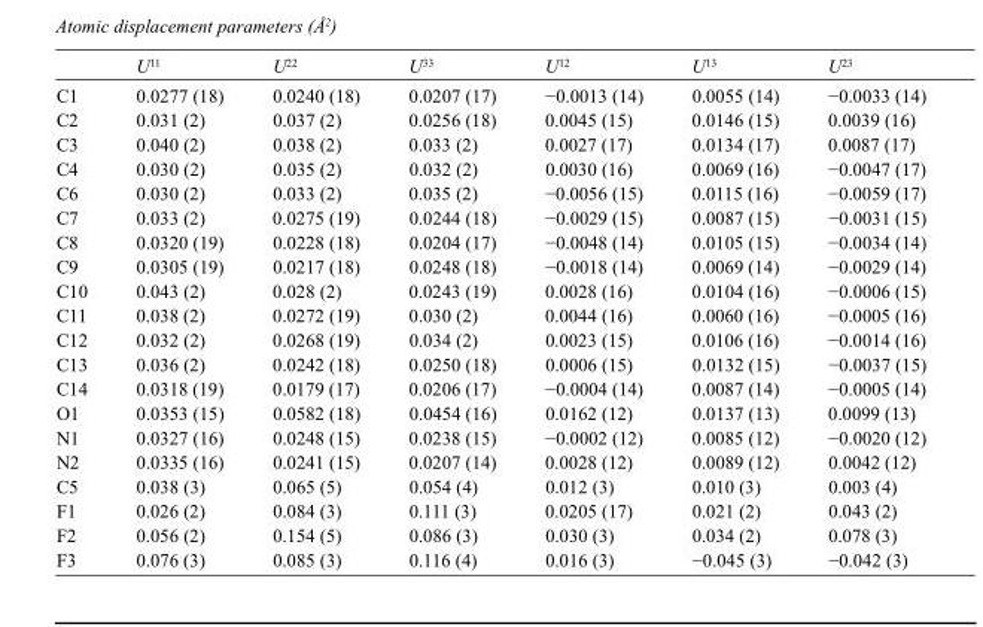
<table><thead><tr><td></td><td>U<sup>11</sup></td><td>U<sup>22</sup></td><td>U<sup>33</sup></td><td>U<sup>12</sup></td><td>U<sup>13</sup></td><td>U<sup>23</sup></td></tr></thead><tbody><tr><td>C1</td><td>0.0277 (18)</td><td>0.0240 (18)</td><td>0.0207 (17)</td><td>−0.0013 (14)</td><td>0.0055 (14)</td><td>−0.0033 (14)</td></tr><tr><td>C2</td><td>0.031 (2)</td><td>0.037 (2)</td><td>0.0256 (18)</td><td>0.0045 (15)</td><td>0.0146 (15)</td><td>0.0039 (16)</td></tr><tr><td>C3</td><td>0.040 (2)</td><td>0.038 (2)</td><td>0.033 (2)</td><td>0.0027 (17)</td><td>0.0134 (17)</td><td>0.0087 (17)</td></tr><tr><td>C4</td><td>0.030 (2)</td><td>0.035 (2)</td><td>0.032 (2)</td><td>0.0030 (16)</td><td>0.0069 (16)</td><td>−0.0047 (17)</td></tr><tr><td>C6</td><td>0.030 (2)</td><td>0.033 (2)</td><td>0.035 (2)</td><td>−0.0056 (15)</td><td>0.0115 (16)</td><td>−0.0059 (17)</td></tr><tr><td>C7</td><td>0.033 (2)</td><td>0.0275 (19)</td><td>0.0244 (18)</td><td>−0.0029 (15)</td><td>0.0087 (15)</td><td>−0.0031 (15)</td></tr><tr><td>C8</td><td>0.0320 (19)</td><td>0.0228 (18)</td><td>0.0204 (17)</td><td>−0.0048 (14)</td><td>0.0105 (15)</td><td>−0.0034 (14)</td></tr><tr><td>C9</td><td>0.0305 (19)</td><td>0.0217 (18)</td><td>0.0248 (18)</td><td>−0.0018 (14)</td><td>0.0069 (14)</td><td>−0.0029 (14)</td></tr><tr><td>C10</td><td>0.043 (2)</td><td>0.028 (2)</td><td>0.0243 (19)</td><td>0.0028 (16)</td><td>0.0104 (16)</td><td>−0.0006 (15)</td></tr><tr><td>C11</td><td>0.038 (2)</td><td>0.0272 (19)</td><td>0.030 (2)</td><td>0.0044 (16)</td><td>0.0060 (16)</td><td>−0.0005 (16)</td></tr><tr><td>C12</td><td>0.032 (2)</td><td>0.0268 (19)</td><td>0.034 (2)</td><td>0.0023 (15)</td><td>0.0106 (16)</td><td>−0.0014 (16)</td></tr><tr><td>C13</td><td>0.036 (2)</td><td>0.0242 (18)</td><td>0.0250 (18)</td><td>0.0006 (15)</td><td>0.0132 (15)</td><td>−0.0037 (15)</td></tr><tr><td>C14</td><td>0.0318 (19)</td><td>0.0179 (17)</td><td>0.0206 (17)</td><td>−0.0004 (14)</td><td>0.0087 (14)</td><td>−0.0005 (14)</td></tr><tr><td>O1</td><td>0.0353 (15)</td><td>0.0582 (18)</td><td>0.0454 (16)</td><td>0.0162 (12)</td><td>0.0137 (13)</td><td>0.0099 (13)</td></tr><tr><td>N1</td><td>0.0327 (16)</td><td>0.0248 (15)</td><td>0.0238 (15)</td><td>−0.0002 (12)</td><td>0.0085 (12)</td><td>−0.0020 (12)</td></tr><tr><td>N2</td><td>0.0335 (16)</td><td>0.0241 (15)</td><td>0.0207 (14)</td><td>0.0028 (12)</td><td>0.0089 (12)</td><td>0.0042 (12)</td></tr><tr><td>C5</td><td>0.038 (3)</td><td>0.065 (5)</td><td>0.054 (4)</td><td>0.012 (3)</td><td>0.010 (3)</td><td>0.003 (4)</td></tr><tr><td>F1</td><td>0.026 (2)</td><td>0.084 (3)</td><td>0.111 (3)</td><td>0.0205 (17)</td><td>0.021 (2)</td><td>0.043 (2)</td></tr><tr><td>F2</td><td>0.056 (2)</td><td>0.154 (5)</td><td>0.086 (3)</td><td>0.030 (3)</td><td>0.034 (2)</td><td>0.078 (3)</td></tr><tr><td>F3</td><td>0.076 (3)</td><td>0.085 (3)</td><td>0.116 (4)</td><td>0.016 (3)</td><td>−0.045 (3)</td><td>−0.042 (3)</td></tr></tbody></table>